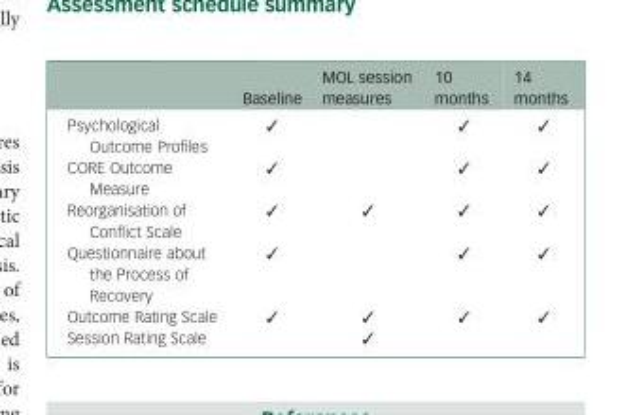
<table><thead><tr><td></td><td>Baseline</td><td>MOL session measures</td><td>10 months</td><td>14 months</td></tr></thead><tbody><tr><td>Psychological Outcome Profiles</td><td>✓</td><td></td><td>✓</td><td>✓</td></tr><tr><td>CORE Outcome Measure</td><td>✓</td><td></td><td>✓</td><td>✓</td></tr><tr><td>Reorganisation of Conflict Scale</td><td>✓</td><td>✓</td><td>✓</td><td>✓</td></tr><tr><td>Questionnaire about the Process of Recovery</td><td>✓</td><td></td><td>✓</td><td>✓</td></tr><tr><td>Outcome Rating Scale</td><td>✓</td><td>✓</td><td>✓</td><td>✓</td></tr><tr><td>Session Rating Scale</td><td></td><td>✓</td><td></td><td></td></tr></tbody></table>